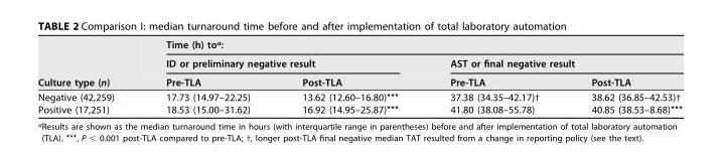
<table><thead><tr><td rowspan="3">Culture type (n)</td><td colspan="4">Time (h) to<sup>a</sup>:</td></tr><tr><td colspan="2">ID or preliminary negative result</td><td colspan="2">AST or final negative result</td></tr><tr><td>Pre-TLA</td><td>Post-TLA</td><td>Pre-TLA</td><td>Post-TLA</td></tr></thead><tbody><tr><td>Negative (42,259)</td><td>17.73 (14.97–22.25)</td><td>13.62 (12.60–16.80)***</td><td>37.38 (34.35–42.17)†</td><td>38.62 (36.85–42.53)†</td></tr><tr><td>Positive (17,251)</td><td>18.53 (15.00–31.62)</td><td>16.92 (14.95–25.87)***</td><td>41.80 (38.08–55.78)</td><td>40.85 (38.53–8.68)***</td></tr></tbody></table>